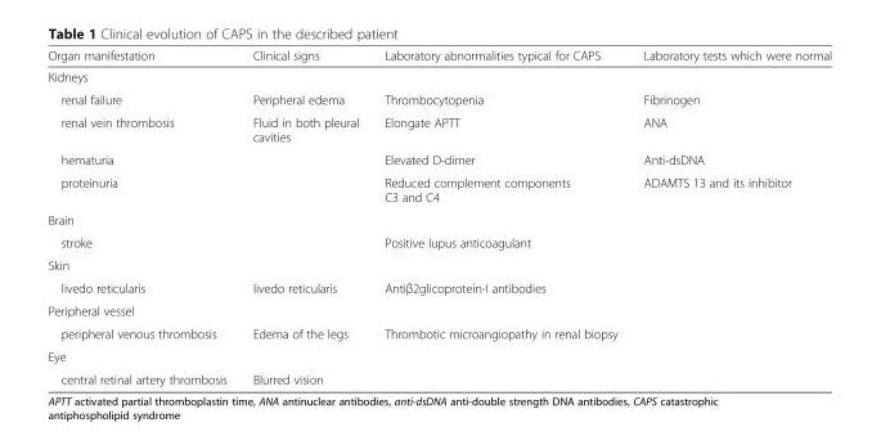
<table><thead><tr><td>Organ manifestation</td><td>Clinical signs</td><td>Laboratory abnormalities typical for CAPS</td><td>Laboratory tests which were normal</td></tr></thead><tbody><tr><td colspan="4">Kidneys</td></tr><tr><td>renal failure</td><td>Peripheral edema</td><td>Thrombocytopenia</td><td>Fibrinogen</td></tr><tr><td>renal vein thrombosis</td><td>Fluid in both pleural cavities</td><td>Elongate APTT</td><td>ANA</td></tr><tr><td>hematuria</td><td></td><td>Elevated D-dimer</td><td>Anti-dsDNA</td></tr><tr><td>proteinuria</td><td></td><td>Reduced complement components C3 and C4</td><td>ADAMTS 13 and its inhibitor</td></tr><tr><td colspan="4">Brain</td></tr><tr><td>stroke</td><td></td><td>Positive lupus anticoagulant</td><td></td></tr><tr><td colspan="4">Skin</td></tr><tr><td>livedo reticularis</td><td>livedo reticularis</td><td>Antiβ2glicoprotein-I antibodies</td><td></td></tr><tr><td colspan="4">Peripheral vessel</td></tr><tr><td>peripheral venous thrombosis</td><td>Edema of the legs</td><td>Thrombotic microangiopathy in renal biopsy</td><td></td></tr><tr><td colspan="4">Eye</td></tr><tr><td>central retinal artery thrombosis</td><td>Blurred vision</td><td></td><td></td></tr></tbody></table>